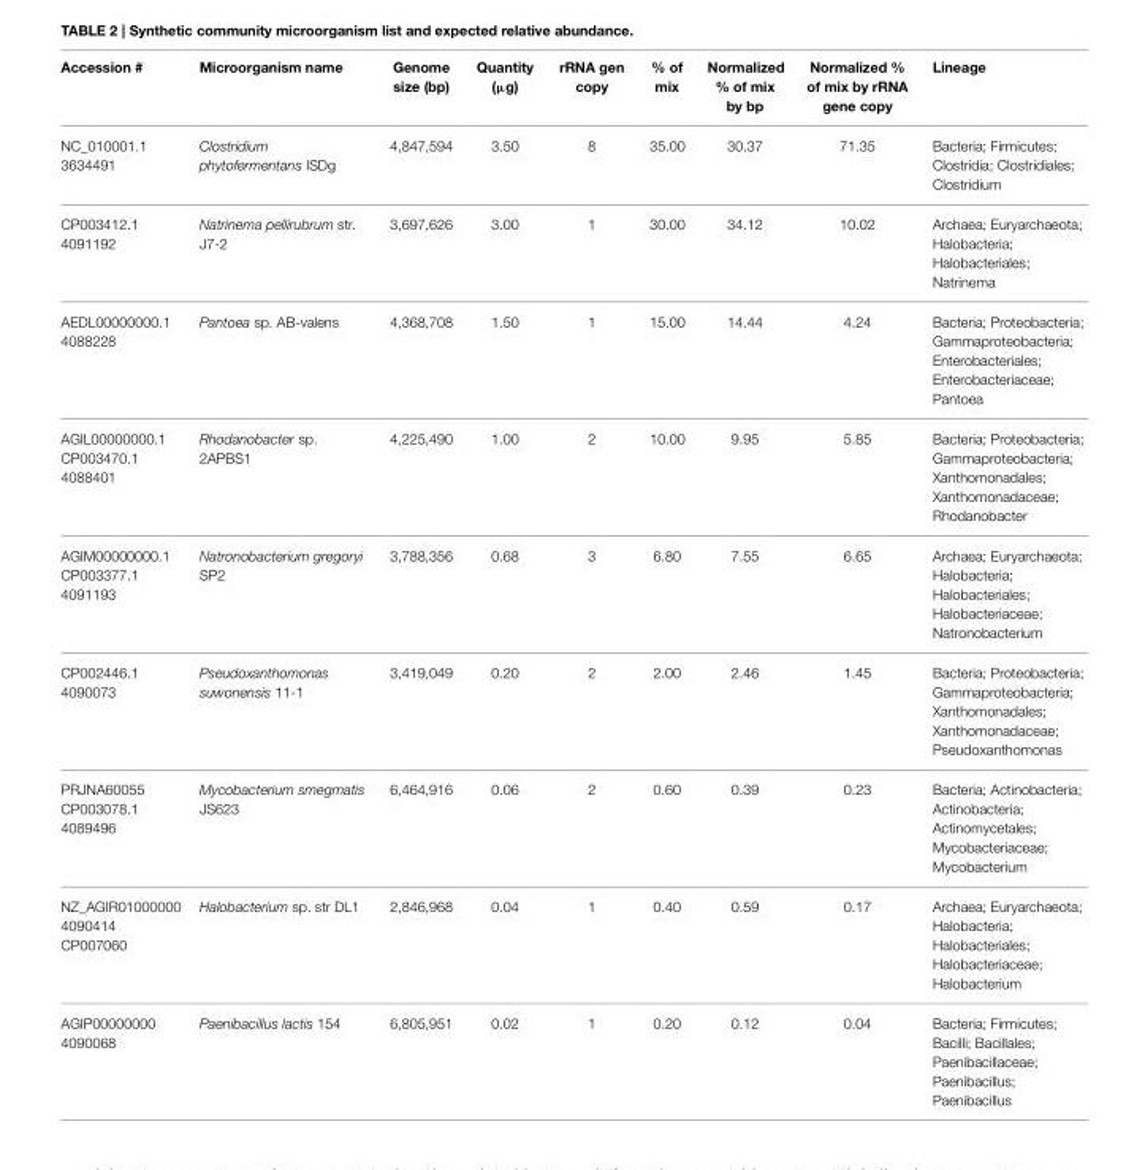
<table><thead><tr><td>Accession #</td><td>Microorganism name</td><td>Genome size (bp)</td><td>Quantity (µg)</td><td>rRNA gen copy</td><td>% of mix</td><td>Normalized % of mix by bp</td><td>Normalized % of mix by rRNA gene copy</td><td>Lineage</td></tr></thead><tbody><tr><td>NC_010001.1 3634491</td><td>Clostridium phytofermentans ISDg</td><td>4,847,594</td><td>3.50</td><td>8</td><td>35.00</td><td>30.37</td><td>71.35</td><td>Bacteria; Firmicutes; Clostridia; Clostridiales; Clostridium</td></tr><tr><td>CP003412.1 4091192</td><td>Natrinema pellirubrum str. J7-2</td><td>3,697,626</td><td>3.00</td><td>1</td><td>30.00</td><td>34.12</td><td>10.02</td><td>Archaea; Euryarchaeota; Halobacteria; Halobacteriales; Natrinema</td></tr><tr><td>AEDL00000000.1 4088228</td><td>Pantoea sp. AB-valens</td><td>4,368,708</td><td>1.50</td><td>1</td><td>15.00</td><td>14.44</td><td>4.24</td><td>Bacteria; Proteobacteria; Gammaproteobacteria; Enterobacteriales; Enterobacteriaceae; Pantoea</td></tr><tr><td>AGIL00000000.1 CP003470.1 4088401</td><td>Rhodanobacter sp. 2APBS1</td><td>4,225,490</td><td>1.00</td><td>2</td><td>10.00</td><td>9.95</td><td>5.85</td><td>Bacteria; Proteobacteria; Gammaproteobacteria; Xanthomonadales; Xanthomonadaceae; Rhodanobacter</td></tr><tr><td>AGIM00000000.1 CP003377.1 4091193</td><td>Natronobacterium gregoryi SP2</td><td>3,788,356</td><td>0.68</td><td>3</td><td>6.80</td><td>7.55</td><td>6.65</td><td>Archaea; Euryarchaeota; Halobacteria; Halobacteriales; Halobacteriaceae; Natronobacterium</td></tr><tr><td>CP002446.1 4090073</td><td>Pseudoxanthomonas suwonensis 11-1</td><td>3,419,049</td><td>0.20</td><td>2</td><td>2.00</td><td>2.46</td><td>1.45</td><td>Bacteria; Proteobacteria; Gammaproteobacteria; Xanthomonadales; Xanthomonadaceae; Pseudoxanthomonas</td></tr><tr><td>PRJNA60055 CP003078.1 4089496</td><td>Mycobacterium smegmatis JS623</td><td>6,464,916</td><td>0.06</td><td>2</td><td>0.60</td><td>0.39</td><td>0.23</td><td>Bacteria; Actinobacteria; Actinobacteria; Actinomycetales; Mycobacteriaceae; Mycobacterium</td></tr><tr><td>NZ_AGIR01000000 4090414 CP007060</td><td>Halobacterium sp. str DL1</td><td>2,846,968</td><td>0.04</td><td>1</td><td>0.40</td><td>0.59</td><td>0.17</td><td>Archaea; Euryarchaeota; Halobacteria; Halobacteriales; Halobacteriaceae; Halobacterium</td></tr><tr><td>AGIP00000000 4090068</td><td>Paenibacillus lactis 154</td><td>6,805,951</td><td>0.02</td><td>1</td><td>0.20</td><td>0.12</td><td>0.04</td><td>Bacteria; Firmicutes; Bacilli; Bacillales; Paenibacillaceae; Paenibacillus; Paenibacillus</td></tr></tbody></table>